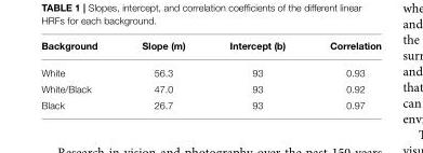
<table><thead><tr><td>Background</td><td>Slope (m)</td><td>Intercept (b)</td><td>Correlation</td></tr></thead><tbody><tr><td>White</td><td>56.3</td><td>93</td><td>0.93</td></tr><tr><td>White/Black</td><td>47.0</td><td>93</td><td>0.92</td></tr><tr><td>Black</td><td>26.7</td><td>93</td><td>0.97</td></tr></tbody></table>